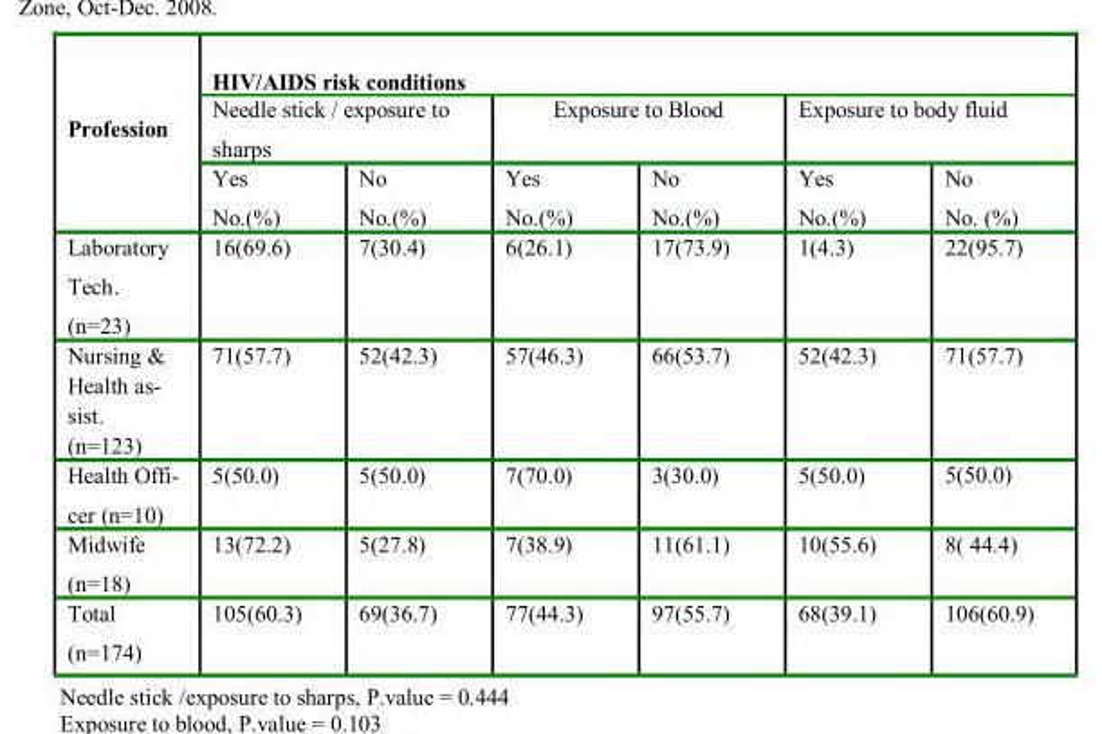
<table><thead><tr><td rowspan="3">Profession</td><td colspan="6">HIV/AIDS risk conditions</td></tr><tr><td colspan="2">Needle stick / exposure to sharps</td><td colspan="2">Exposure to Blood</td><td colspan="2">Exposure to body fluid</td></tr><tr><td>Yes No.(%)</td><td>No No.(%)</td><td>Yes No.(%)</td><td>No No.(%)</td><td>Yes No.(%)</td><td>No No. (%)</td></tr></thead><tbody><tr><td>Laboratory Tech. (n=23)</td><td>16(69.6)</td><td>7(30.4)</td><td>6(26.1)</td><td>17(73.9)</td><td>1(4.3)</td><td>22(95.7)</td></tr><tr><td>Nursing &amp; Health as- sist. (n=123)</td><td>71(57.7)</td><td>52(42.3)</td><td>57(46.3)</td><td>66(53.7)</td><td>52(42.3)</td><td>71(57.7)</td></tr><tr><td>Health Offi- cer (n=10)</td><td>5(50.0)</td><td>5(50.0)</td><td>7(70.0)</td><td>3(30.0)</td><td>5(50.0)</td><td>5(50.0)</td></tr><tr><td>Midwife (n=18)</td><td>13(72.2)</td><td>5(27.8)</td><td>7(38.9)</td><td>11(61.1)</td><td>10(55.6)</td><td>8( 44.4)</td></tr><tr><td>Total (n=174)</td><td>105(60.3)</td><td>69(36.7)</td><td>77(44.3)</td><td>97(55.7)</td><td>68(39.1)</td><td>106(60.9)</td></tr></tbody></table>